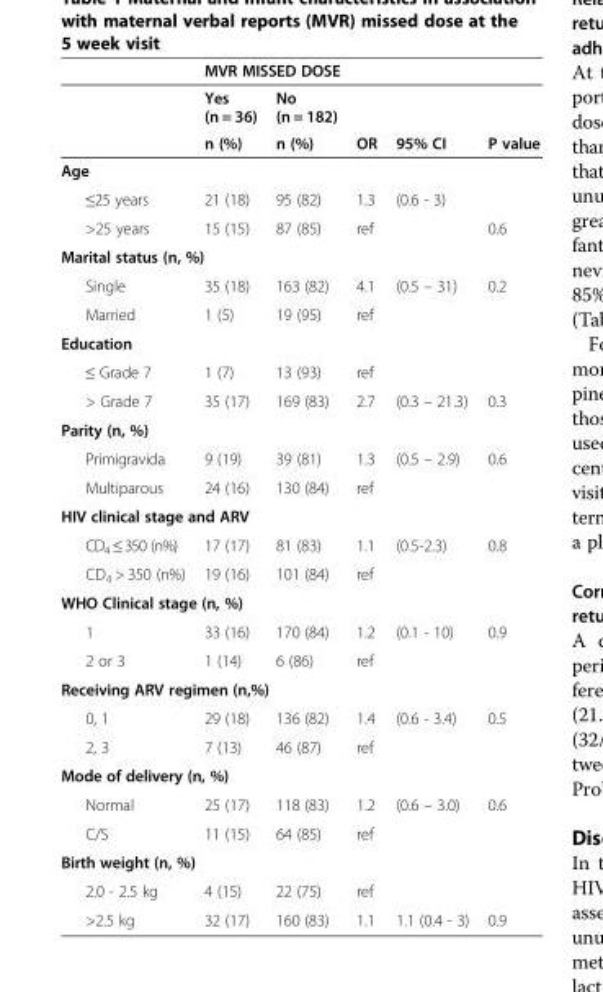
<table><thead><tr><td rowspan="3"></td><td colspan="5">MVR MISSED DOSE</td></tr><tr><td rowspan="2">Yes (n = 36) n (%)</td><td rowspan="2">No (n = 182) n (%)</td><td rowspan="2">OR</td><td rowspan="2">95% CI</td><td rowspan="2">P value</td></tr><tr></tr></thead><tbody><tr><td colspan="6">Age</td></tr><tr><td>≤25 years</td><td>21 (18)</td><td>95 (82)</td><td>1.3</td><td>(0.6 - 3)</td><td></td></tr><tr><td>&gt;25 years</td><td>15 (15)</td><td>87 (85)</td><td>ref</td><td></td><td>0.6</td></tr><tr><td colspan="6">Marital status (n, %)</td></tr><tr><td>Single</td><td>35 (18)</td><td>163 (82)</td><td>4.1</td><td>(0.5 – 31)</td><td>0.2</td></tr><tr><td>Married</td><td>1 (5)</td><td>19 (95)</td><td>ref</td><td></td><td></td></tr><tr><td colspan="6">Education</td></tr><tr><td>≤ Grade 7</td><td>1 (7)</td><td>13 (93)</td><td>ref</td><td></td><td></td></tr><tr><td>&gt; Grade 7</td><td>35 (17)</td><td>169 (83)</td><td>2.7</td><td>(0.3 – 21.3)</td><td>0.3</td></tr><tr><td colspan="6">Parity (n, %)</td></tr><tr><td>Primigravida</td><td>9 (19)</td><td>39 (81)</td><td>1.3</td><td>(0.5 – 2.9)</td><td>0.6</td></tr><tr><td>Multiparous</td><td>24 (16)</td><td>130 (84)</td><td>ref</td><td></td><td></td></tr><tr><td colspan="6">HIV clinical stage and ARV</td></tr><tr><td>CD<sub>4</sub> ≤ 350 (n%)</td><td>17 (17)</td><td>81 (83)</td><td>1.1</td><td>(0.5-2.3)</td><td>0.8</td></tr><tr><td>CD<sub>4</sub> &gt; 350 (n%)</td><td>19 (16)</td><td>101 (84)</td><td>ref</td><td></td><td></td></tr><tr><td colspan="6">WHO Clinical stage (n, %)</td></tr><tr><td>1</td><td>33 (16)</td><td>170 (84)</td><td>1.2</td><td>(0.1 - 10)</td><td>0.9</td></tr><tr><td>2 or 3</td><td>1 (14)</td><td>6 (86)</td><td>ref</td><td></td><td></td></tr><tr><td colspan="6">Receiving ARV regimen (n,%)</td></tr><tr><td>0, 1</td><td>29 (18)</td><td>136 (82)</td><td>1.4</td><td>(0.6 - 3.4)</td><td>0.5</td></tr><tr><td>2, 3</td><td>7 (13)</td><td>46 (87)</td><td>ref</td><td></td><td></td></tr><tr><td colspan="6">Mode of delivery (n, %)</td></tr><tr><td>Normal</td><td>25 (17)</td><td>118 (83)</td><td>1.2</td><td>(0.6 – 3.0)</td><td>0.6</td></tr><tr><td>C/S</td><td>11 (15)</td><td>64 (85)</td><td>ref</td><td></td><td></td></tr><tr><td colspan="6">Birth weight (n, %)</td></tr><tr><td>2.0 - 2.5 kg</td><td>4 (15)</td><td>22 (75)</td><td>ref</td><td></td><td></td></tr><tr><td>&gt;2.5 kg</td><td>32 (17)</td><td>160 (83)</td><td>1.1</td><td>1.1 (0.4 - 3)</td><td>0.9</td></tr></tbody></table>